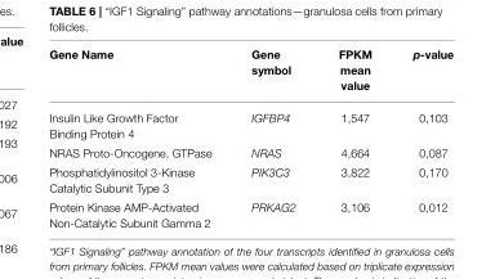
<table><thead><tr><td>Gene Name</td><td>Gene symbol</td><td>FPKM mean value</td><td>p-value</td></tr></thead><tbody><tr><td>Insulin Like Growth Factor Binding Protein 4</td><td>IGFBP4</td><td>1,547</td><td>0,103</td></tr><tr><td>NRAS Proto-Oncogene, GTPase</td><td>NRAS</td><td>4,664</td><td>0,087</td></tr><tr><td>Phosphatidylinositol 3-Kinase Catalytic Subunit Type 3</td><td>PIK3C3</td><td>3,822</td><td>0,170</td></tr><tr><td>Protein Kinase AMP-Activated Non-Catalytic Subunit Gamma 2</td><td>PRKAG2</td><td>3,106</td><td>0,012</td></tr></tbody></table>